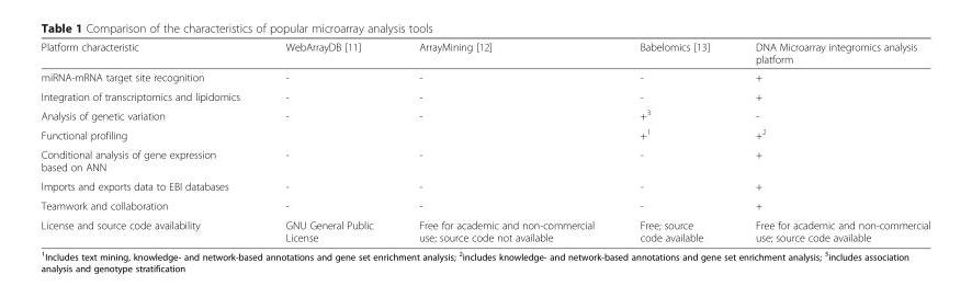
<table><thead><tr><td>Platform characteristic</td><td>WebArrayDB [11]</td><td>ArrayMining [12]</td><td>Babelomics [13]</td><td>DNA Microarray integromics analysis platform</td></tr></thead><tbody><tr><td>miRNA-mRNA target site recognition</td><td>-</td><td>-</td><td>-</td><td>+</td></tr><tr><td>Integration of transcriptomics and lipidomics</td><td>-</td><td>-</td><td>-</td><td>+</td></tr><tr><td>Analysis of genetic variation</td><td>-</td><td>-</td><td>+<sup>3</sup></td><td>-</td></tr><tr><td>Functional profiling</td><td></td><td></td><td>+<sup>1</sup></td><td>+<sup>2</sup></td></tr><tr><td>Conditional analysis of gene expression based on ANN</td><td>-</td><td>-</td><td>-</td><td>+</td></tr><tr><td>Imports and exports data to EBI databases</td><td>-</td><td>-</td><td>-</td><td>+</td></tr><tr><td>Teamwork and collaboration</td><td>-</td><td>-</td><td>-</td><td>+</td></tr><tr><td>License and source code availability</td><td>GNU General Public License</td><td>Free for academic and non-commercial use; source code not available</td><td>Free; source code available</td><td>Free for academic and non-commercial use; source code available</td></tr></tbody></table>